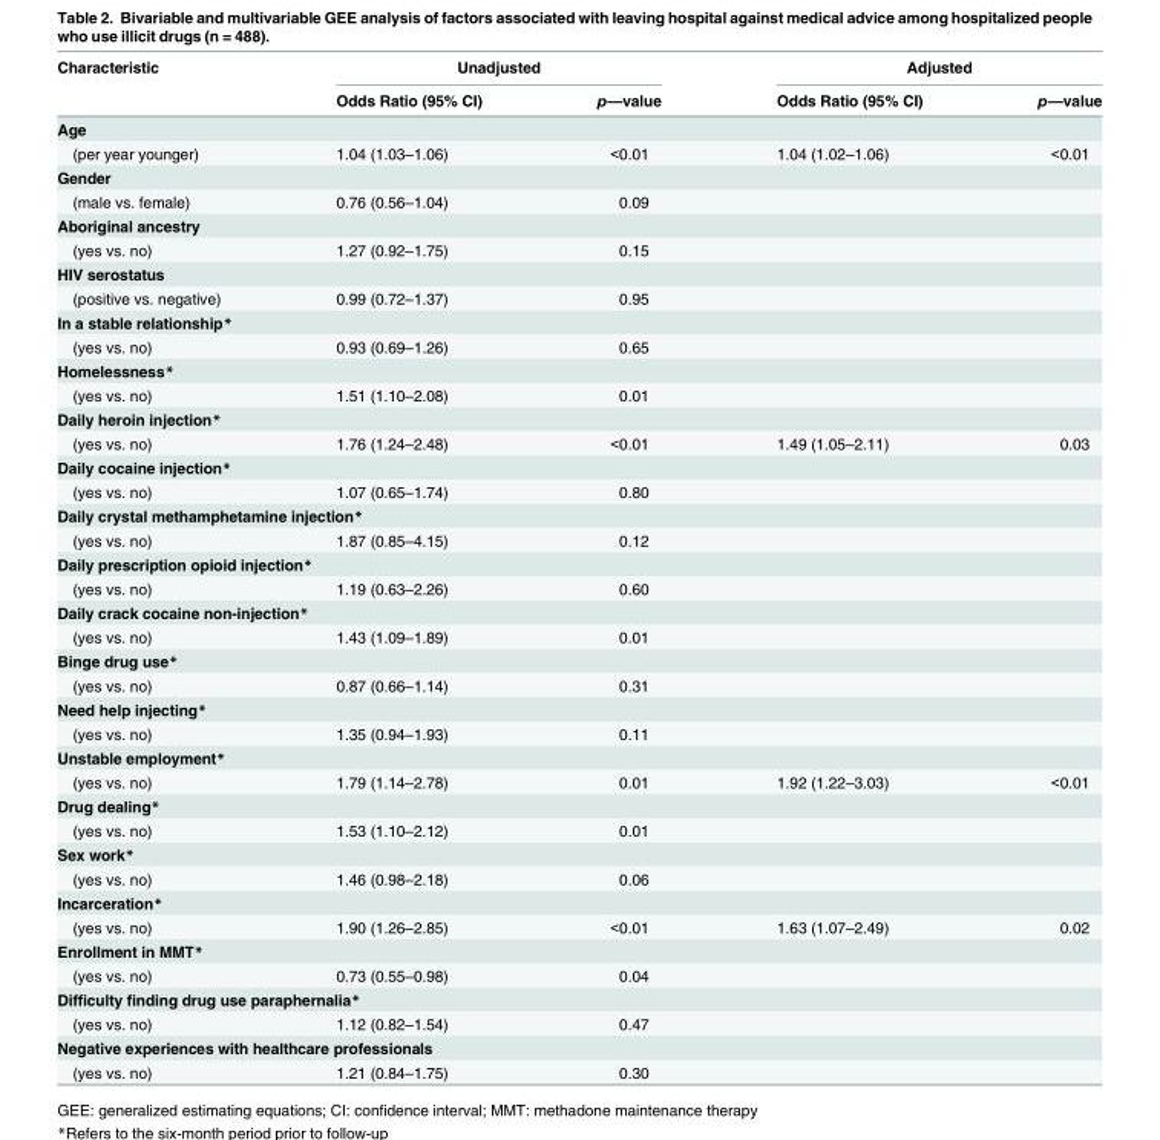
<table><thead><tr><td rowspan="2">Characteristic</td><td colspan="2">Unadjusted</td><td colspan="2">Adjusted</td></tr><tr><td>Odds Ratio (95% CI)</td><td>p—value</td><td>Odds Ratio (95% CI)</td><td>p—value</td></tr></thead><tbody><tr><td colspan="5">Age</td></tr><tr><td>(per year younger)</td><td>1.04 (1.03–1.06)</td><td>&lt;0.01</td><td>1.04 (1.02–1.06)</td><td>&lt;0.01</td></tr><tr><td colspan="5">Gender</td></tr><tr><td>(male vs. female)</td><td>0.76 (0.56–1.04)</td><td>0.09</td><td></td><td></td></tr><tr><td colspan="5">Aboriginal ancestry</td></tr><tr><td>(yes vs. no)</td><td>1.27 (0.92–1.75)</td><td>0.15</td><td></td><td></td></tr><tr><td colspan="5">HIV serostatus</td></tr><tr><td>(positive vs. negative)</td><td>0.99 (0.72–1.37)</td><td>0.95</td><td></td><td></td></tr><tr><td colspan="5">In a stable relationship*</td></tr><tr><td>(yes vs. no)</td><td>0.93 (0.69–1.26)</td><td>0.65</td><td></td><td></td></tr><tr><td colspan="5">Homelessness*</td></tr><tr><td>(yes vs. no)</td><td>1.51 (1.10–2.08)</td><td>0.01</td><td></td><td></td></tr><tr><td colspan="5">Daily heroin injection*</td></tr><tr><td>(yes vs. no)</td><td>1.76 (1.24–2.48)</td><td>&lt;0.01</td><td>1.49 (1.05–2.11)</td><td>0.03</td></tr><tr><td colspan="5">Daily cocaine injection*</td></tr><tr><td>(yes vs. no)</td><td>1.07 (0.65–1.74)</td><td>0.80</td><td></td><td></td></tr><tr><td colspan="5">Daily crystal methamphetamine injection*</td></tr><tr><td>(yes vs. no)</td><td>1.87 (0.85–4.15)</td><td>0.12</td><td></td><td></td></tr><tr><td colspan="5">Daily prescription opioid injection*</td></tr><tr><td>(yes vs. no)</td><td>1.19 (0.63–2.26)</td><td>0.60</td><td></td><td></td></tr><tr><td colspan="5">Daily crack cocaine non-injection*</td></tr><tr><td>(yes vs. no)</td><td>1.43 (1.09–1.89)</td><td>0.01</td><td></td><td></td></tr><tr><td colspan="5">Binge drug use*</td></tr><tr><td>(yes vs. no)</td><td>0.87 (0.66–1.14)</td><td>0.31</td><td></td><td></td></tr><tr><td colspan="5">Need help injecting*</td></tr><tr><td>(yes vs. no)</td><td>1.35 (0.94–1.93)</td><td>0.11</td><td></td><td></td></tr><tr><td colspan="5">Unstable employment*</td></tr><tr><td>(yes vs. no)</td><td>1.79 (1.14–2.78)</td><td>0.01</td><td>1.92 (1.22–3.03)</td><td>&lt;0.01</td></tr><tr><td colspan="5">Drug dealing*</td></tr><tr><td>(yes vs. no)</td><td>1.53 (1.10–2.12)</td><td>0.01</td><td></td><td></td></tr><tr><td colspan="5">Sex work*</td></tr><tr><td>(yes vs. no)</td><td>1.46 (0.98–2.18)</td><td>0.06</td><td></td><td></td></tr><tr><td colspan="5">Incarceration*</td></tr><tr><td>(yes vs. no)</td><td>1.90 (1.26–2.85)</td><td>&lt;0.01</td><td>1.63 (1.07–2.49)</td><td>0.02</td></tr><tr><td colspan="5">Enrollment in MMT*</td></tr><tr><td>(yes vs. no)</td><td>0.73 (0.55–0.98)</td><td>0.04</td><td></td><td></td></tr><tr><td colspan="5">Difficulty finding drug use paraphernalia*</td></tr><tr><td>(yes vs. no)</td><td>1.12 (0.82–1.54)</td><td>0.47</td><td></td><td></td></tr><tr><td colspan="5">Negative experiences with healthcare professionals</td></tr><tr><td>(yes vs. no)</td><td>1.21 (0.84–1.75)</td><td>0.30</td><td></td><td></td></tr></tbody></table>